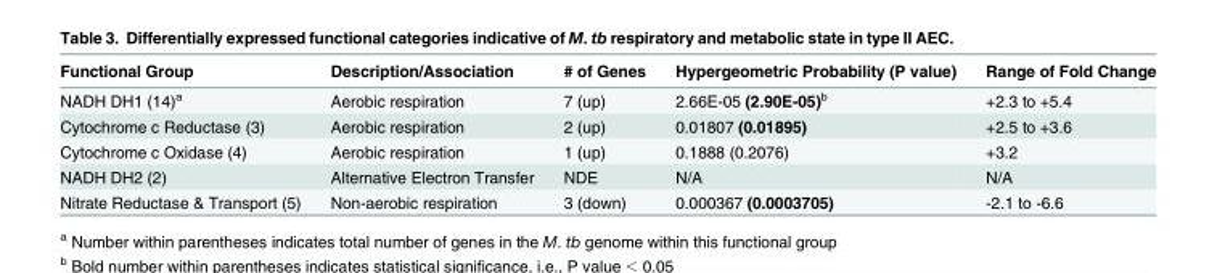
<table><thead><tr><td>Functional Group</td><td>Description/Association</td><td># of Genes</td><td>Hypergeometric Probability (P value)</td><td>Range of Fold Change</td></tr></thead><tbody><tr><td>NADH DH1 (14)<sup>a</sup></td><td>Aerobic respiration</td><td>7 (up)</td><td>2.66E-05 (2.90E-05)<sup>b</sup></td><td>+2.3 to +5.4</td></tr><tr><td>Cytochrome c Reductase (3)</td><td>Aerobic respiration</td><td>2 (up)</td><td>0.01807 (0.01895)</td><td>+2.5 to +3.6</td></tr><tr><td>Cytochrome c Oxidase (4)</td><td>Aerobic respiration</td><td>1 (up)</td><td>0.1888 (0.2076)</td><td>+3.2</td></tr><tr><td>NADH DH2 (2)</td><td>Alternative Electron Transfer</td><td>NDE</td><td>N/A</td><td>N/A</td></tr><tr><td>Nitrate Reductase &amp; Transport (5)</td><td>Non-aerobic respiration</td><td>3 (down)</td><td>0.000367 (0.0003705)</td><td>-2.1 to -6.6</td></tr></tbody></table>